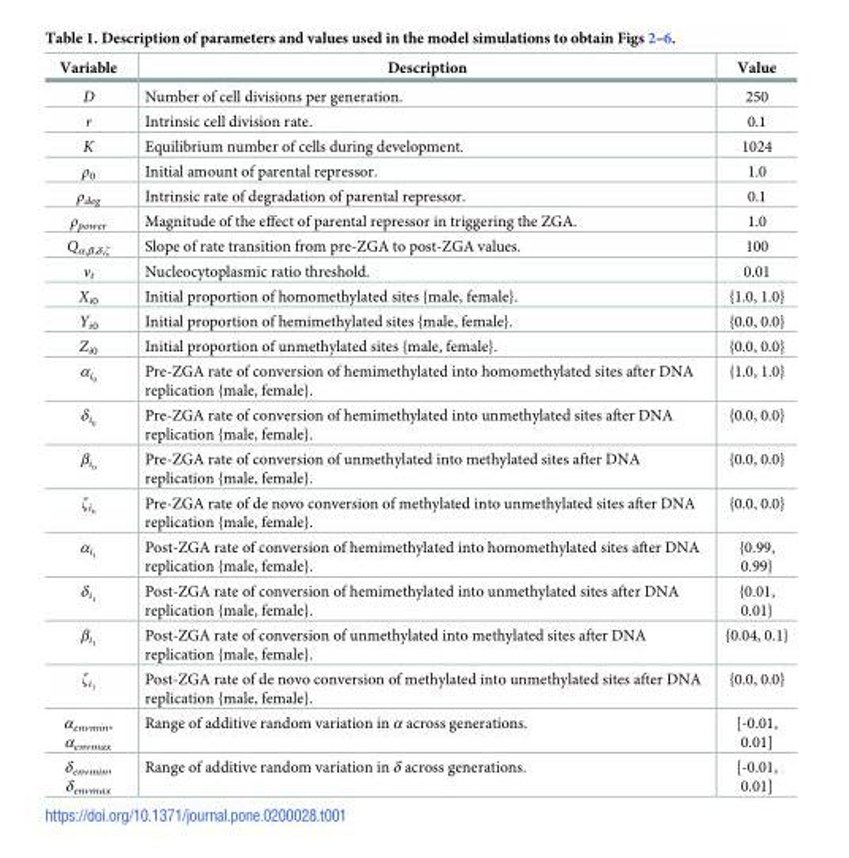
<table><thead><tr><td>Variable</td><td>Description</td><td>Value</td></tr></thead><tbody><tr><td>D</td><td>Number of cell divisions per generation.</td><td>250</td></tr><tr><td>r</td><td>Intrinsic cell division rate.</td><td>0.1</td></tr><tr><td>K</td><td>Equilibrium number of cells during development.</td><td>1024</td></tr><tr><td>ρ<sub>0</sub></td><td>Initial amount of parental repressor.</td><td>1.0</td></tr><tr><td>ρ<sub>deg</sub></td><td>Intrinsic rate of degradation of parental repressor.</td><td>0.1</td></tr><tr><td>ρ<sub>power</sub></td><td>Magnitude of the effect of parental repressor in triggering the ZGA.</td><td>1.0</td></tr><tr><td>Q<sub>α,β,δ,ζ</sub></td><td>Slope of rate transition from pre-ZGA to post-ZGA values.</td><td>100</td></tr><tr><td>ν<sub>t</sub></td><td>Nucleocytoplasmic ratio threshold.</td><td>0.01</td></tr><tr><td>X<sub>i0</sub></td><td>Initial proportion of homomethylated sites {male, female}.</td><td>{1.0, 1.0}</td></tr><tr><td>Y<sub>i0</sub></td><td>Initial proportion of hemimethylated sites {male, female}.</td><td>{0.0, 0.0}</td></tr><tr><td>Z<sub>i0</sub></td><td>Initial proportion of unmethylated sites {male, female}.</td><td>{0.0, 0.0}</td></tr><tr><td>αi0</td><td>Pre-ZGA rate of conversion of hemimethylated into homomethylated sites after DNA replication {male, female}.</td><td>{1.0, 1.0}</td></tr><tr><td>δi0</td><td>Pre-ZGA rate of conversion of hemimethylated into unmethylated sites after DNA replication {male, female}.</td><td>{0.0, 0.0}</td></tr><tr><td>βi0</td><td>Pre-ZGA rate of conversion of unmethylated into methylated sites after DNA replication {male, female}.</td><td>{0.0, 0.0}</td></tr><tr><td>ζi0</td><td>Pre-ZGA rate of de novo conversion of methylated into unmethylated sites after DNA replication {male, female}.</td><td>{0.0, 0.0}</td></tr><tr><td>αi1</td><td>Post-ZGA rate of conversion of hemimethylated into homomethylated sites after DNA replication {male, female}.</td><td>{0.99, 0.99}</td></tr><tr><td>δi1</td><td>Post-ZGA rate of conversion of hemimethylated into unmethylated sites after DNA replication {male, female}.</td><td>{0.01, 0.01}</td></tr><tr><td>βi1</td><td>Post-ZGA rate of conversion of unmethylated into methylated sites after DNA replication {male, female}.</td><td>{0.04, 0.1}</td></tr><tr><td>ζi1</td><td>Post-ZGA rate of de novo conversion of methylated into unmethylated sites after DNA replication {male, female}.</td><td>{0.0, 0.0}</td></tr><tr><td>α<sub>envmin</sub>, α<sub>envmax</sub></td><td>Range of additive random variation in α across generations.</td><td>[-0.01, 0.01]</td></tr><tr><td>δ<sub>envmin</sub>, δ<sub>envmax</sub></td><td>Range of additive random variation in δ across generations.</td><td>[-0.01, 0.01]</td></tr></tbody></table>